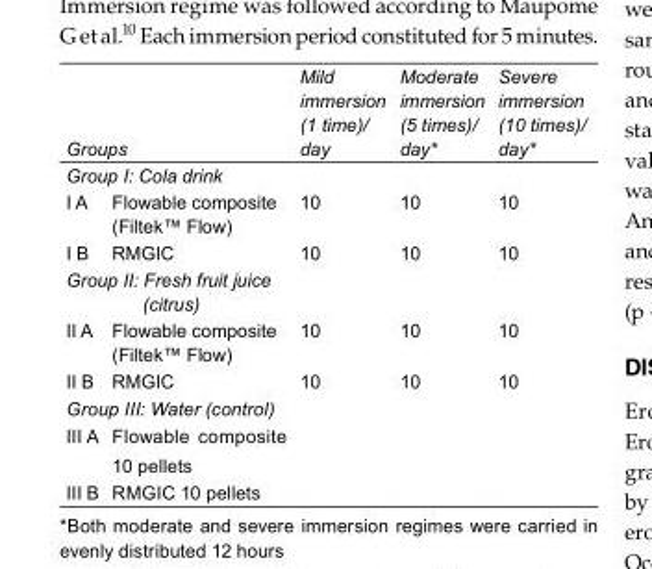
<table><tbody><tr><td>Groups</td><td>Mild immersion (1 time)/ day</td><td>Moderate immersion (5 times)/ day*</td><td>Severe immersion (10 times)/ day*</td></tr><tr><td colspan="4">Group I: Cola drink</td></tr><tr><td>I A Flowable composite</td><td>10</td><td>10</td><td>10</td></tr><tr><td colspan="4">(Filtek™ Flow)</td></tr><tr><td>I B RMGIC</td><td>10</td><td>10</td><td>10</td></tr><tr><td colspan="4">Group II: Fresh fruit juice (citrus)</td></tr><tr><td>II A Flowable composite</td><td>10</td><td>10</td><td>10</td></tr><tr><td colspan="4">(Filtek™ Flow)</td></tr><tr><td>II B RMGIC</td><td>10</td><td>10</td><td>10</td></tr><tr><td colspan="4">Group III: Water (control)</td></tr><tr><td colspan="4">III A Flowable composite 10 pellets</td></tr><tr><td>III B RMGIC 10 pellets</td><td></td><td></td><td></td></tr></tbody></table>